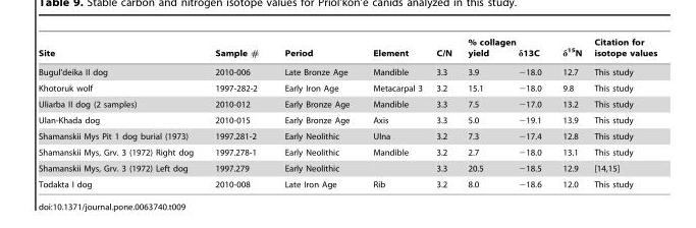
<table><thead><tr><td>Site</td><td>Sample #</td><td>Period</td><td>Element</td><td>C/N</td><td>% collagen yield</td><td>δ13C</td><td>δ<sup>15</sup>N</td><td>Citation for isotope values</td></tr></thead><tbody><tr><td>Bugul’deika II dog</td><td>2010-006</td><td>Late Bronze Age</td><td>Mandible</td><td>3.3</td><td>3.9</td><td>−18.0</td><td>12.7</td><td>This study</td></tr><tr><td>Khotoruk wolf</td><td>1997-282-2</td><td>Early Iron Age</td><td>Metacarpal 3</td><td>3.2</td><td>15.1</td><td>−18.0</td><td>9.8</td><td>This study</td></tr><tr><td>Uliarba II dog (2 samples)</td><td>2010-012</td><td>Early Bronze Age</td><td>Mandible</td><td>3.3</td><td>7.5</td><td>−17.0</td><td>13.2</td><td>This study</td></tr><tr><td>Ulan-Khada dog</td><td>2010-015</td><td>Early Bronze Age</td><td>Axis</td><td>3.3</td><td>5.0</td><td>−19.1</td><td>13.9</td><td>This study</td></tr><tr><td>Shamanskii Mys Pit 1 dog burial (1973)</td><td>1997.281-2</td><td>Early Neolithic</td><td>Ulna</td><td>3.2</td><td>7.3</td><td>−17.4</td><td>12.8</td><td>This study</td></tr><tr><td>Shamanskii Mys, Grv. 3 (1972) Right dog</td><td>1997.278-1</td><td>Early Neolithic</td><td>Mandible</td><td>3.2</td><td>2.7</td><td>−18.0</td><td>13.1</td><td>This study</td></tr><tr><td>Shamanskii Mys, Grv. 3 (1972) Left dog</td><td>1997.279</td><td>Early Neolithic</td><td></td><td>3.3</td><td>20.5</td><td>−18.5</td><td>12.9</td><td>[14,15]</td></tr><tr><td>Todakta I dog</td><td>2010-008</td><td>Late Iron Age</td><td>Rib</td><td>3.2</td><td>8.0</td><td>−18.6</td><td>12.0</td><td>This study</td></tr></tbody></table>